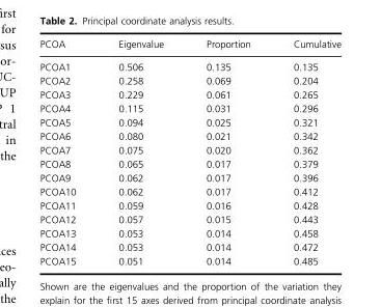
<table><thead><tr><td>PCOA</td><td>Eigenvalue</td><td>Proportion</td><td>Cumulative</td></tr></thead><tbody><tr><td>PCOA1</td><td>0.506</td><td>0.135</td><td>0.135</td></tr><tr><td>PCOA2</td><td>0.258</td><td>0.069</td><td>0.204</td></tr><tr><td>PCOA3</td><td>0.229</td><td>0.061</td><td>0.265</td></tr><tr><td>PCOA4</td><td>0.115</td><td>0.031</td><td>0.296</td></tr><tr><td>PCOA5</td><td>0.094</td><td>0.025</td><td>0.321</td></tr><tr><td>PCOA6</td><td>0.080</td><td>0.021</td><td>0.342</td></tr><tr><td>PCOA7</td><td>0.075</td><td>0.020</td><td>0.362</td></tr><tr><td>PCOA8</td><td>0.065</td><td>0.017</td><td>0.379</td></tr><tr><td>PCOA9</td><td>0.062</td><td>0.017</td><td>0.396</td></tr><tr><td>PCOA10</td><td>0.062</td><td>0.017</td><td>0.412</td></tr><tr><td>PCOA11</td><td>0.059</td><td>0.016</td><td>0.428</td></tr><tr><td>PCOA12</td><td>0.057</td><td>0.015</td><td>0.443</td></tr><tr><td>PCOA13</td><td>0.053</td><td>0.014</td><td>0.458</td></tr><tr><td>PCOA14</td><td>0.053</td><td>0.014</td><td>0.472</td></tr><tr><td>PCOA15</td><td>0.051</td><td>0.014</td><td>0.485</td></tr></tbody></table>